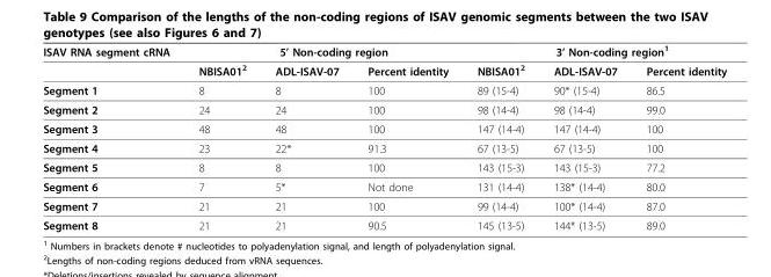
<table><thead><tr><td rowspan="2">ISAV RNA segment cRNA</td><td colspan="3">5’ Non-coding region</td><td colspan="3">3’ Non-coding region<sup>1</sup></td></tr><tr><td>NBISA01<sup>2</sup></td><td>ADL-ISAV-07</td><td>Percent identity</td><td>NBISA01<sup>2</sup></td><td>ADL-ISAV-07</td><td>Percent identity</td></tr></thead><tbody><tr><td>Segment 1</td><td>8</td><td>8</td><td>100</td><td>89 (15-4)</td><td>90* (15-4)</td><td>86.5</td></tr><tr><td>Segment 2</td><td>24</td><td>24</td><td>100</td><td>98 (14-4)</td><td>98 (14-4)</td><td>99.0</td></tr><tr><td>Segment 3</td><td>48</td><td>48</td><td>100</td><td>147 (14-4)</td><td>147 (14-4)</td><td>100</td></tr><tr><td>Segment 4</td><td>23</td><td>22*</td><td>91.3</td><td>67 (13-5)</td><td>67 (13-5)</td><td>100</td></tr><tr><td>Segment 5</td><td>8</td><td>8</td><td>100</td><td>143 (15-3)</td><td>143 (15-3)</td><td>77.2</td></tr><tr><td>Segment 6</td><td>7</td><td>5*</td><td>Not done</td><td>131 (14-4)</td><td>138* (14-4)</td><td>80.0</td></tr><tr><td>Segment 7</td><td>21</td><td>21</td><td>100</td><td>99 (14-4)</td><td>100* (14-4)</td><td>87.0</td></tr><tr><td>Segment 8</td><td>21</td><td>21</td><td>90.5</td><td>145 (13-5)</td><td>144* (13-5)</td><td>89.0</td></tr></tbody></table>